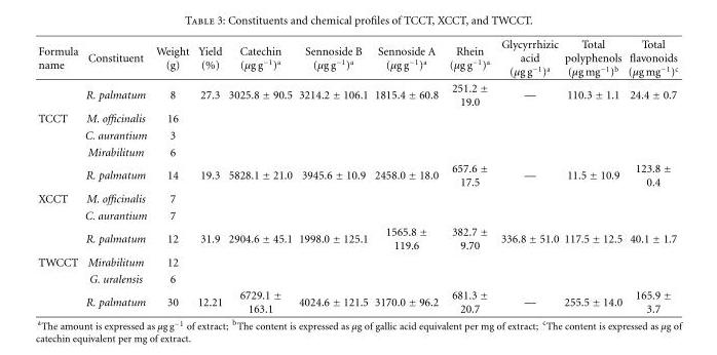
<table><thead><tr><td>Formula name</td><td>Constituent</td><td>Weight (g)</td><td>Yield (%)</td><td>Catechin (μg g<sup>−1</sup>)<sup>a</sup></td><td>Sennoside B (μg g<sup>−1</sup>)<sup>a</sup></td><td>Sennoside A (μg g<sup>−1</sup>)<sup>a</sup></td><td>Rhein (μg g<sup>−1</sup>)<sup>a</sup></td><td>Glycyrrhizic acid (μg g<sup>−1</sup>)<sup>a</sup></td><td>Total polyphenols (μg mg<sup>−1</sup>)<sup>b</sup></td><td>Total flavonoids (μg mg<sup>−1</sup>)<sup>c</sup></td></tr></thead><tbody><tr><td></td><td>R. palmatum</td><td>8</td><td>27.3</td><td>3025.8 ± 90.5</td><td>3214.2 ± 106.1</td><td>1815.4 ± 60.8</td><td>251.2 ± 19.0</td><td>—</td><td>110.3 ± 1.1</td><td>24.4 ± 0.7</td></tr><tr><td rowspan="4">TCCT</td><td>M. officinalis</td><td>16</td><td></td><td></td><td></td><td></td><td></td><td></td><td></td><td></td></tr><tr><td>C. aurantium</td><td>3</td><td></td><td></td><td></td><td></td><td></td><td></td><td></td><td></td></tr><tr><td>Mirabilitum</td><td>6</td><td></td><td></td><td></td><td></td><td></td><td></td><td></td><td></td></tr><tr><td>R. palmatum</td><td>14</td><td>19.3</td><td>5828.1 ± 21.0</td><td>3945.6 ± 10.9</td><td>2458.0 ± 18.0</td><td>657.6 ± 17.5</td><td>—</td><td>11.5 ± 10.9</td><td>123.8 ± 0.4</td></tr><tr><td rowspan="3">XCCT</td><td>M. officinalis</td><td>7</td><td></td><td></td><td></td><td></td><td></td><td></td><td></td><td></td></tr><tr><td>C. aurantium</td><td>7</td><td></td><td></td><td></td><td></td><td></td><td></td><td></td><td></td></tr><tr><td>R. palmatum</td><td>12</td><td>31.9</td><td>2904.6 ± 45.1</td><td>1998.0 ± 125.1</td><td>1565.8 ± 119.6</td><td>382.7 ± 9.70</td><td>336.8 ± 51.0</td><td>117.5 ± 12.5</td><td>40.1 ± 1.7</td></tr><tr><td rowspan="3">TWCCT</td><td>Mirabilitum</td><td>12</td><td></td><td></td><td></td><td></td><td></td><td></td><td></td><td></td></tr><tr><td>G. uralensis</td><td>6</td><td></td><td></td><td></td><td></td><td></td><td></td><td></td><td></td></tr><tr><td>R. palmatum</td><td>30</td><td>12.21</td><td>6729.1 ± 163.1</td><td>4024.6 ± 121.5</td><td>3170.0 ± 96.2</td><td>681.3 ± 20.7</td><td>—</td><td>255.5 ± 14.0</td><td>165.9 ± 3.7</td></tr></tbody></table>